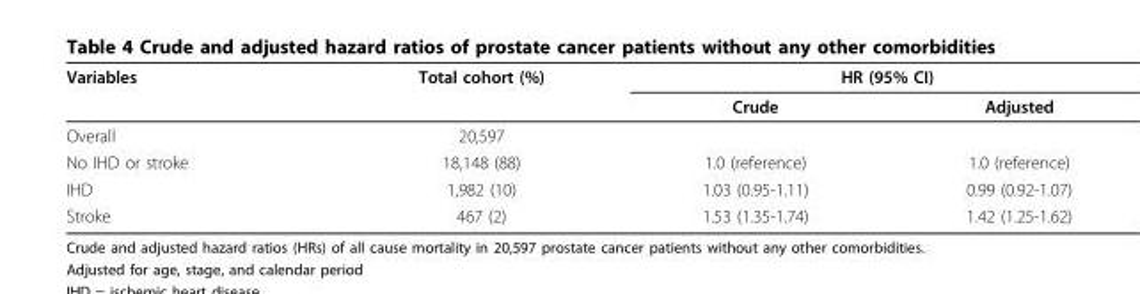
<table><thead><tr><td rowspan="2">Variables</td><td rowspan="2">Total cohort (%)</td><td colspan="2">HR (95% CI)</td></tr><tr><td>Crude</td><td>Adjusted</td></tr></thead><tbody><tr><td>Overall</td><td>20,597</td><td></td><td></td></tr><tr><td>No IHD or stroke</td><td>18,148 (88)</td><td>1.0 (reference)</td><td>1.0 (reference)</td></tr><tr><td>IHD</td><td>1,982 (10)</td><td>1.03 (0.95-1.11)</td><td>0.99 (0.92-1.07)</td></tr><tr><td>Stroke</td><td>467 (2)</td><td>1.53 (1.35-1.74)</td><td>1.42 (1.25-1.62)</td></tr></tbody></table>